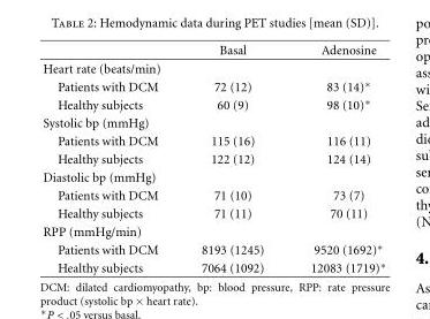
<table><thead><tr><td></td><td>Basal</td><td>Adenosine</td></tr></thead><tbody><tr><td colspan="3">Heart rate (beats/min)</td></tr><tr><td>Patients with DCM</td><td>72 (12)</td><td>83 (14)∗</td></tr><tr><td>Healthy subjects</td><td>60 (9)</td><td>98 (10)∗</td></tr><tr><td colspan="3">Systolic bp (mmHg)</td></tr><tr><td>Patients with DCM</td><td>115 (16)</td><td>116 (11)</td></tr><tr><td>Healthy subjects</td><td>122 (12)</td><td>124 (14)</td></tr><tr><td colspan="3">Diastolic bp (mmHg)</td></tr><tr><td>Patients with DCM</td><td>71 (10)</td><td>73 (7)</td></tr><tr><td>Healthy subjects</td><td>71 (11)</td><td>70 (11)</td></tr><tr><td colspan="3">RPP (mmHg/min)</td></tr><tr><td>Patients with DCM</td><td>8193 (1245)</td><td>9520 (1692)∗</td></tr><tr><td>Healthy subjects</td><td>7064 (1092)</td><td>12083 (1719)∗</td></tr></tbody></table>